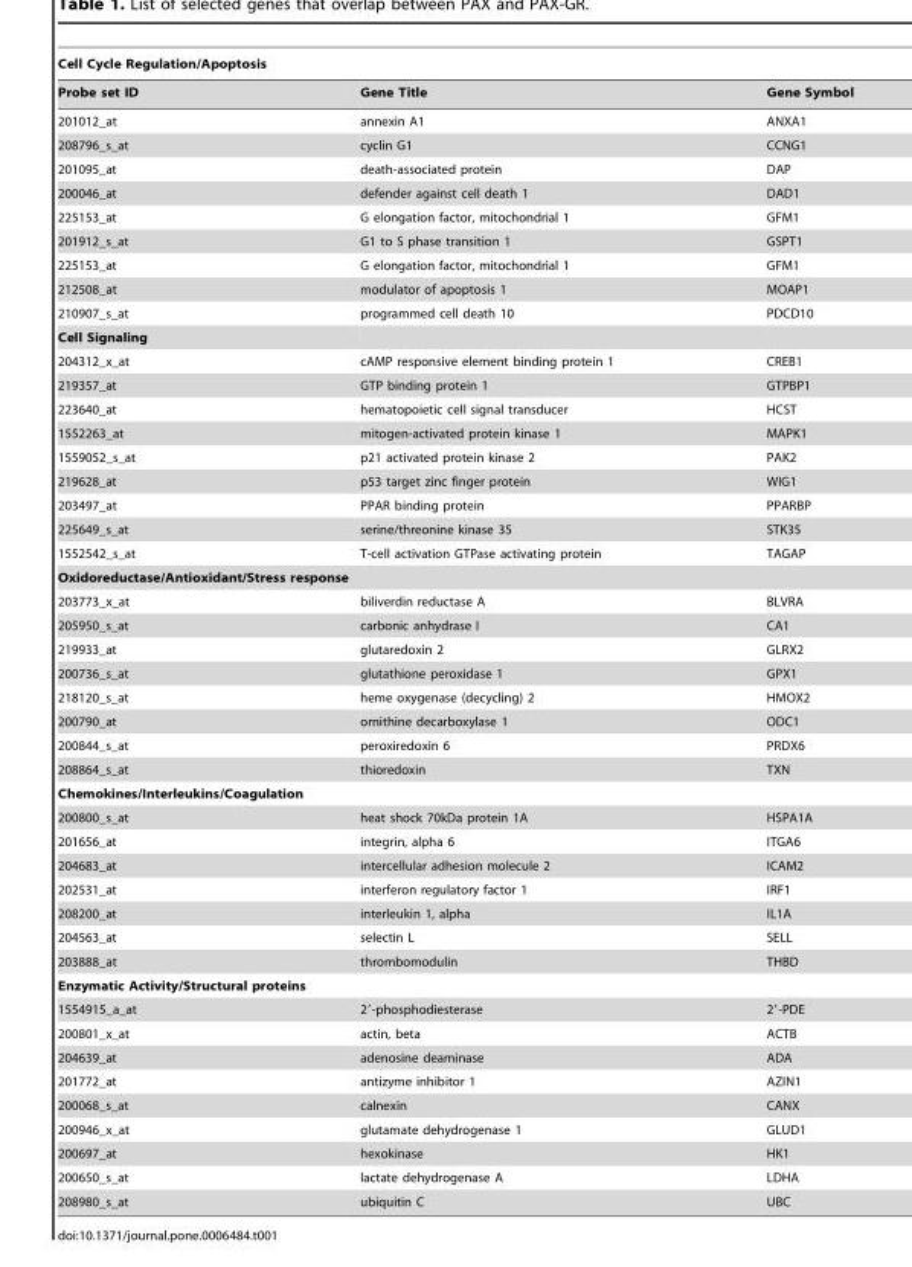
<table><thead><tr><td colspan="3">Cell Cycle Regulation/Apoptosis</td></tr><tr><td>Probe set ID</td><td>Gene Title</td><td>Gene Symbol</td></tr></thead><tbody><tr><td>201012_at</td><td>annexin A1</td><td>ANXA1</td></tr><tr><td>208796_s_at</td><td>cyclin G1</td><td>CCNG1</td></tr><tr><td>201095_at</td><td>death-associated protein</td><td>DAP</td></tr><tr><td>200046_at</td><td>defender against cell death 1</td><td>DAD1</td></tr><tr><td>225153_at</td><td>G elongation factor, mitochondrial 1</td><td>GFM1</td></tr><tr><td>201912_s_at</td><td>G1 to S phase transition 1</td><td>GSPT1</td></tr><tr><td>225153_at</td><td>G elongation factor, mitochondrial 1</td><td>GFM1</td></tr><tr><td>212508_at</td><td>modulator of apoptosis 1</td><td>MOAP1</td></tr><tr><td>210907_s_at</td><td>programmed cell death 10</td><td>PDCD10</td></tr><tr><td colspan="3">Cell Signaling</td></tr><tr><td>204312_x_at</td><td>cAMP responsive element binding protein 1</td><td>CREB1</td></tr><tr><td>219357_at</td><td>GTP binding protein 1</td><td>GTPBP1</td></tr><tr><td>223640_at</td><td>hematopoietic cell signal transducer</td><td>HCST</td></tr><tr><td>1552263_at</td><td>mitogen-activated protein kinase 1</td><td>MAPK1</td></tr><tr><td>1559052_s_at</td><td>p21 activated protein kinase 2</td><td>PAK2</td></tr><tr><td>219628_at</td><td>p53 target zinc finger protein</td><td>WIG1</td></tr><tr><td>203497_at</td><td>PPAR binding protein</td><td>PPARBP</td></tr><tr><td>225649_s_at</td><td>serine/threonine kinase 35</td><td>STK35</td></tr><tr><td>1552542_s_at</td><td>T-cell activation GTPase activating protein</td><td>TAGAP</td></tr><tr><td colspan="3">Oxidoreductase/Antioxidant/Stress response</td></tr><tr><td>203773_x_at</td><td>biliverdin reductase A</td><td>BLVRA</td></tr><tr><td>205950_s_at</td><td>carbonic anhydrase I</td><td>CA1</td></tr><tr><td>219933_at</td><td>glutaredoxin 2</td><td>GLRX2</td></tr><tr><td>200736_s_at</td><td>glutathione peroxidase 1</td><td>GPX1</td></tr><tr><td>218120_s_at</td><td>heme oxygenase (decycling) 2</td><td>HMOX2</td></tr><tr><td>200790_at</td><td>ornithine decarboxylase 1</td><td>ODC1</td></tr><tr><td>200844_s_at</td><td>peroxiredoxin 6</td><td>PRDX6</td></tr><tr><td>208864_s_at</td><td>thioredoxin</td><td>TXN</td></tr><tr><td colspan="3">Chemokines/Interleukins/Coagulation</td></tr><tr><td>200800_s_at</td><td>heat shock 70kDa protein 1A</td><td>HSPA1A</td></tr><tr><td>201656_at</td><td>integrin, alpha 6</td><td>ITGA6</td></tr><tr><td>204683_at</td><td>intercellular adhesion molecule 2</td><td>ICAM2</td></tr><tr><td>202531_at</td><td>interferon regulatory factor 1</td><td>IRF1</td></tr><tr><td>208200_at</td><td>interleukin 1, alpha</td><td>IL1A</td></tr><tr><td>204563_at</td><td>selectin L</td><td>SELL</td></tr><tr><td>203888_at</td><td>thrombomodulin</td><td>THBD</td></tr><tr><td colspan="3">Enzymatic Activity/Structural proteins</td></tr><tr><td>1554915_a_at</td><td>2′-phosphodiesterase</td><td>2′-PDE</td></tr><tr><td>200801_x_at</td><td>actin, beta</td><td>ACTB</td></tr><tr><td>204639_at</td><td>adenosine deaminase</td><td>ADA</td></tr><tr><td>201772_at</td><td>antizyme inhibitor 1</td><td>AZIN1</td></tr><tr><td>200068_s_at</td><td>calnexin</td><td>CANX</td></tr><tr><td>200946_x_at</td><td>glutamate dehydrogenase 1</td><td>GLUD1</td></tr><tr><td>200697_at</td><td>hexokinase</td><td>HK1</td></tr><tr><td>200650_s_at</td><td>lactate dehydrogenase A</td><td>LDHA</td></tr><tr><td>208980_s_at</td><td>ubiquitin C</td><td>UBC</td></tr></tbody></table>